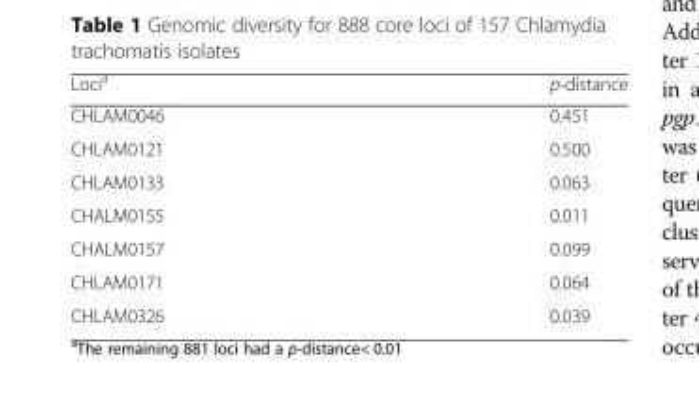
<table><thead><tr><td>Loci<sup>a</sup></td><td>p-distance</td></tr></thead><tbody><tr><td>CHLAM0046</td><td>0.451</td></tr><tr><td>CHLAM0121</td><td>0.500</td></tr><tr><td>CHLAM0133</td><td>0.063</td></tr><tr><td>CHALM0155</td><td>0.011</td></tr><tr><td>CHALM0157</td><td>0.099</td></tr><tr><td>CHLAM0171</td><td>0.064</td></tr><tr><td>CHLAM0326</td><td>0.039</td></tr></tbody></table>